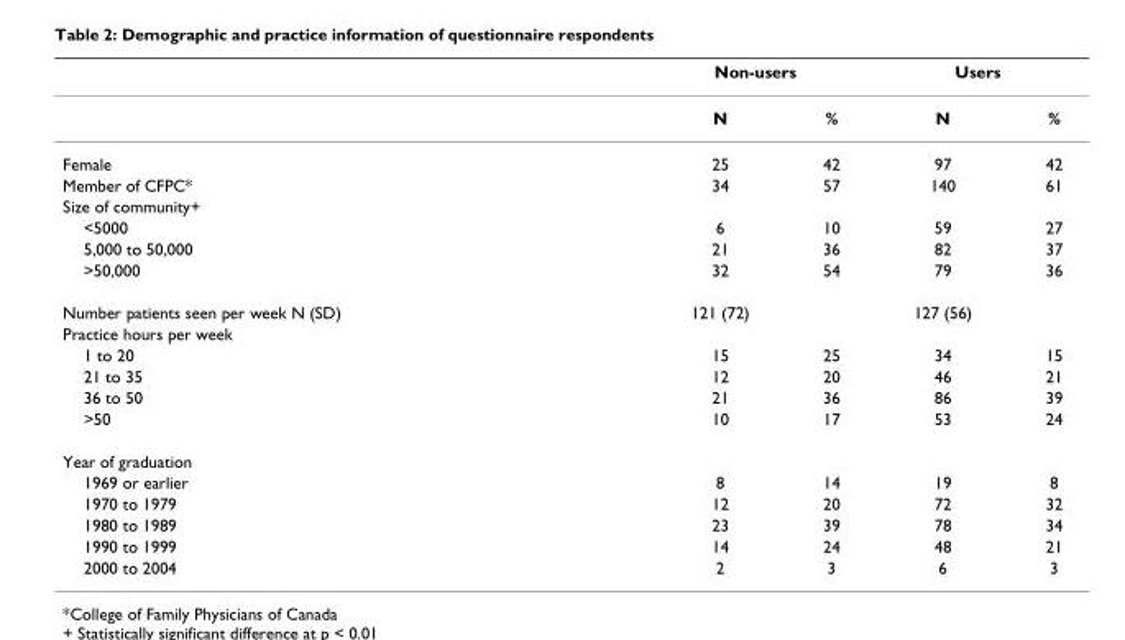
<table><thead><tr><td rowspan="2"></td><td colspan="2">Non-users</td><td colspan="2">Users</td></tr><tr><td>N</td><td>%</td><td>N</td><td>%</td></tr></thead><tbody><tr><td>Female</td><td>25</td><td>42</td><td>97</td><td>42</td></tr><tr><td>Member of CFPC*</td><td>34</td><td>57</td><td>140</td><td>61</td></tr><tr><td colspan="5">Size of community+</td></tr><tr><td>&lt;5000</td><td>6</td><td>10</td><td>59</td><td>27</td></tr><tr><td>5,000 to 50,000</td><td>21</td><td>36</td><td>82</td><td>37</td></tr><tr><td>&gt;50,000</td><td>32</td><td>54</td><td>79</td><td>36</td></tr><tr><td>Number patients seen per week N (SD)</td><td>121 (72)</td><td></td><td>127 (56)</td><td></td></tr><tr><td colspan="5">Practice hours per week</td></tr><tr><td>1 to 20</td><td>15</td><td>25</td><td>34</td><td>15</td></tr><tr><td>21 to 35</td><td>12</td><td>20</td><td>46</td><td>21</td></tr><tr><td>36 to 50</td><td>21</td><td>36</td><td>86</td><td>39</td></tr><tr><td>&gt;50</td><td>10</td><td>17</td><td>53</td><td>24</td></tr><tr><td colspan="5">Year of graduation</td></tr><tr><td>1969 or earlier</td><td>8</td><td>14</td><td>19</td><td>8</td></tr><tr><td>1970 to 1979</td><td>12</td><td>20</td><td>72</td><td>32</td></tr><tr><td>1980 to 1989</td><td>23</td><td>39</td><td>78</td><td>34</td></tr><tr><td>1990 to 1999</td><td>14</td><td>24</td><td>48</td><td>21</td></tr><tr><td>2000 to 2004</td><td>2</td><td>3</td><td>6</td><td>3</td></tr></tbody></table>